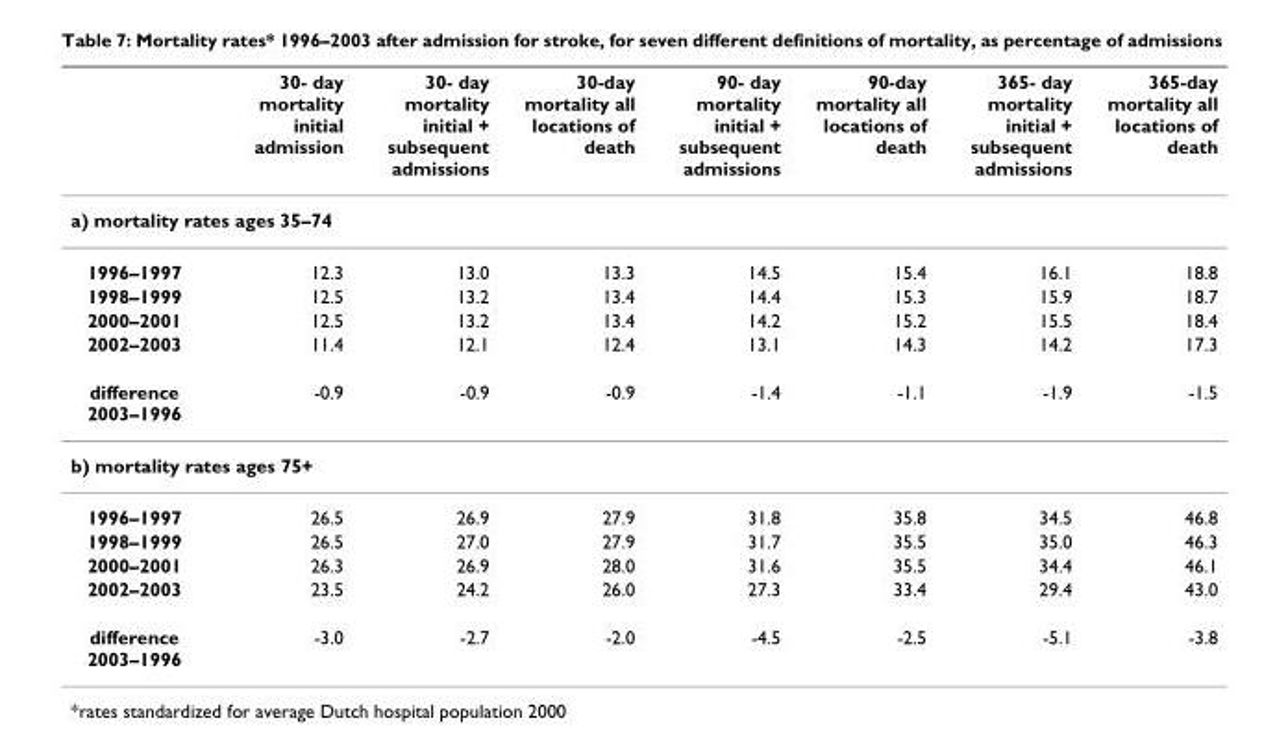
<table><thead><tr><td></td><td>30- day mortality initial admission</td><td>30- day mortality initial + subsequent admissions</td><td>30-day mortality all locations of death</td><td>90- day mortality initial + subsequent admissions</td><td>90-day mortality all locations of death</td><td>365- day mortality initial + subsequent admissions</td><td>365-day mortality all locations of death</td></tr></thead><tbody><tr><td colspan="8">a) mortality rates ages 35–74</td></tr><tr><td>1996–1997</td><td>12.3</td><td>13.0</td><td>13.3</td><td>14.5</td><td>15.4</td><td>16.1</td><td>18.8</td></tr><tr><td>1998–1999</td><td>12.5</td><td>13.2</td><td>13.4</td><td>14.4</td><td>15.3</td><td>15.9</td><td>18.7</td></tr><tr><td>2000–2001</td><td>12.5</td><td>13.2</td><td>13.4</td><td>14.2</td><td>15.2</td><td>15.5</td><td>18.4</td></tr><tr><td>2002–2003</td><td>11.4</td><td>12.1</td><td>12.4</td><td>13.1</td><td>14.3</td><td>14.2</td><td>17.3</td></tr><tr><td>difference 2003–1996</td><td>-0.9</td><td>-0.9</td><td>-0.9</td><td>-1.4</td><td>-1.1</td><td>-1.9</td><td>-1.5</td></tr><tr><td colspan="8">b) mortality rates ages 75+</td></tr><tr><td>1996–1997</td><td>26.5</td><td>26.9</td><td>27.9</td><td>31.8</td><td>35.8</td><td>34.5</td><td>46.8</td></tr><tr><td>1998–1999</td><td>26.5</td><td>27.0</td><td>27.9</td><td>31.7</td><td>35.5</td><td>35.0</td><td>46.3</td></tr><tr><td>2000–2001</td><td>26.3</td><td>26.9</td><td>28.0</td><td>31.6</td><td>35.5</td><td>34.4</td><td>46.1</td></tr><tr><td>2002–2003</td><td>23.5</td><td>24.2</td><td>26.0</td><td>27.3</td><td>33.4</td><td>29.4</td><td>43.0</td></tr><tr><td>difference 2003–1996</td><td>-3.0</td><td>-2.7</td><td>-2.0</td><td>-4.5</td><td>-2.5</td><td>-5.1</td><td>-3.8</td></tr></tbody></table>